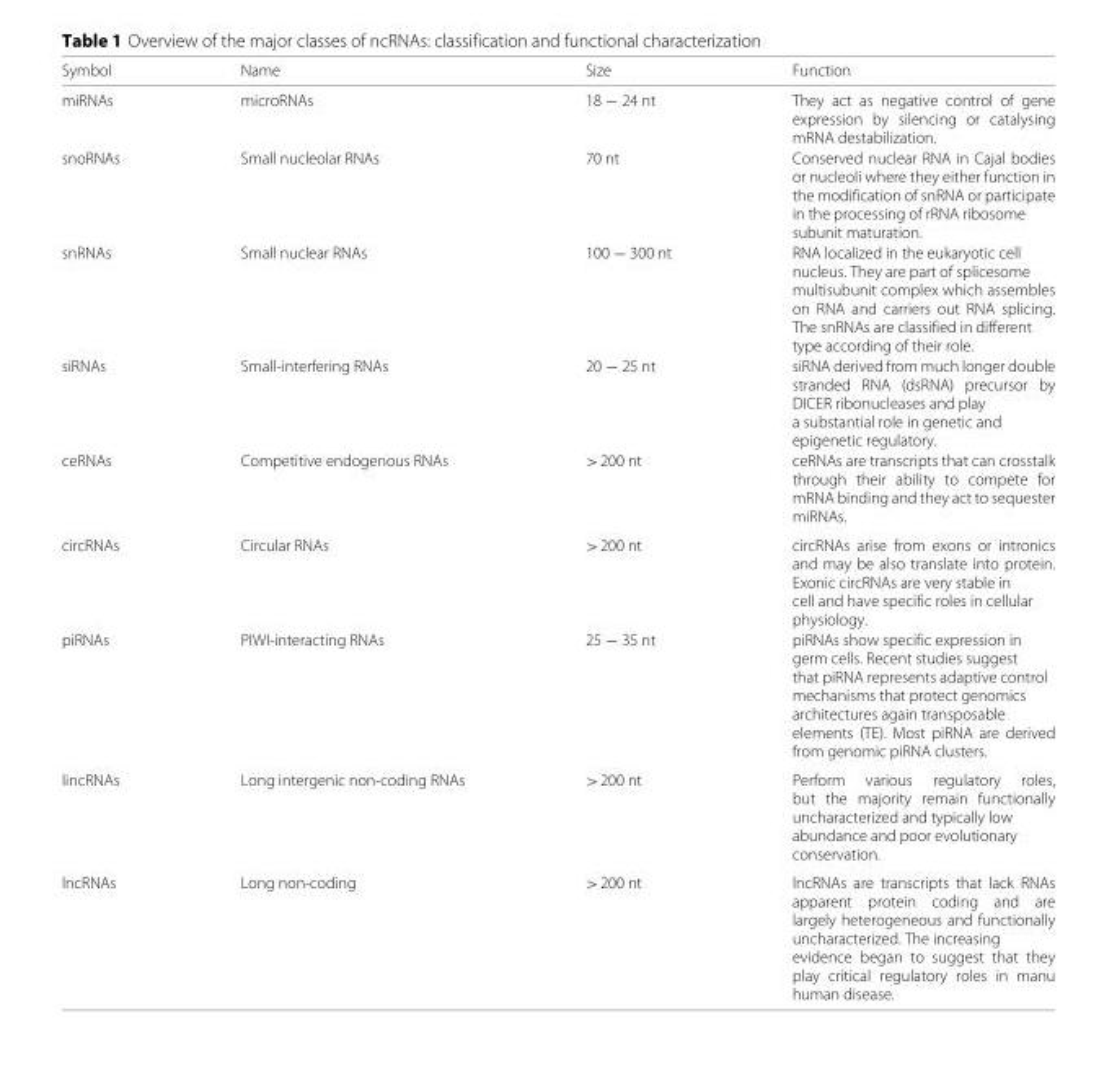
<table><thead><tr><td>Symbol</td><td>Name</td><td>Size</td><td>Function</td></tr></thead><tbody><tr><td>miRNAs</td><td>microRNAs</td><td>18 − 24 nt</td><td>They act as negative control of gene expression by silencing or catalysing mRNA destabilization.</td></tr><tr><td>snoRNAs</td><td>Small nucleolar RNAs</td><td>70 nt</td><td>Conserved nuclear RNA in Cajal bodies or nucleoli where they either function in the modification of snRNA or participate in the processing of rRNA ribosome subunit maturation.</td></tr><tr><td>snRNAs</td><td>Small nuclear RNAs</td><td>100 − 300 nt</td><td>RNA localized in the eukaryotic cell nucleus. They are part of splicesome multisubunit complex which assembles on RNA and carriers out RNA splicing. The snRNAs are classified in different type according of their role.</td></tr><tr><td>siRNAs</td><td>Small-interfering RNAs</td><td>20 − 25 nt</td><td>siRNA derived from much longer double stranded RNA (dsRNA) precursor by DICER ribonucleases and play a substantial role in genetic and epigenetic regulatory.</td></tr><tr><td>ceRNAs</td><td>Competitive endogenous RNAs</td><td>&gt;200 nt</td><td>ceRNAs are transcripts that can crosstalk through their ability to compete for mRNA binding and they act to sequester miRNAs.</td></tr><tr><td>circRNAs</td><td>Circular RNAs</td><td>&gt;200 nt</td><td>circRNAs arise from exons or intronics and may be also translate into protein. Exonic circRNAs are very stable in cell and have specific roles in cellular physiology.</td></tr><tr><td>piRNAs</td><td>PIWI-interacting RNAs</td><td>25 − 35 nt</td><td>piRNAs show specific expression in germ cells. Recent studies suggest that piRNA represents adaptive control mechanisms that protect genomics architectures again transposable elements (TE). Most piRNA are derived from genomic piRNA clusters.</td></tr><tr><td>lincRNAs</td><td>Long intergenic non-coding RNAs</td><td>&gt;200 nt</td><td>Perform various regulatory roles, but the majority remain functionally uncharacterized and typically low abundance and poor evolutionary conservation.</td></tr><tr><td>lncRNAs</td><td>Long non-coding</td><td>&gt;200 nt</td><td>lncRNAs are transcripts that lack RNAs apparent protein coding and are largely heterogeneous and functionally uncharacterized. The increasing evidence began to suggest that they play critical regulatory roles in manu human disease.</td></tr></tbody></table>